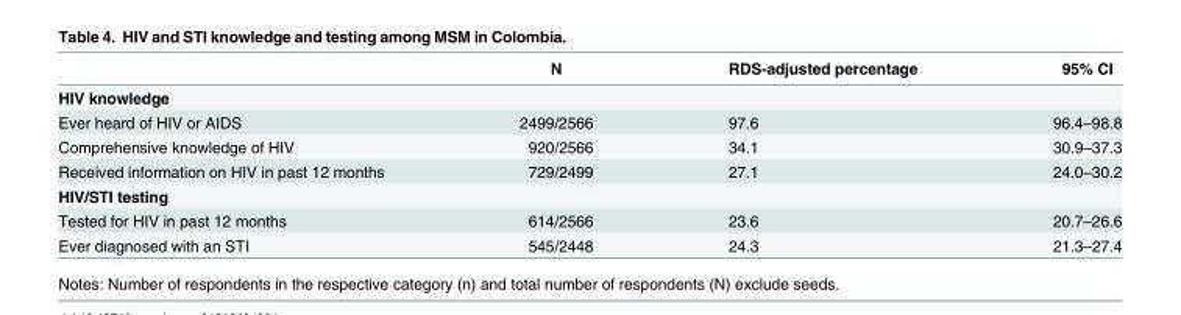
<table><thead><tr><td></td><td>N</td><td>RDS-adjusted percentage</td><td>95% CI</td></tr></thead><tbody><tr><td colspan="4">HIV knowledge</td></tr><tr><td>Ever heard of HIV or AIDS</td><td>2499/2566</td><td>97.6</td><td>96.4–98.8</td></tr><tr><td>Comprehensive knowledge of HIV</td><td>920/2566</td><td>34.1</td><td>30.9–37.3</td></tr><tr><td>Received information on HIV in past 12 months</td><td>729/2499</td><td>27.1</td><td>24.0–30.2</td></tr><tr><td colspan="4">HIV/STI testing</td></tr><tr><td>Tested for HIV in past 12 months</td><td>614/2566</td><td>23.6</td><td>20.7–26.6</td></tr><tr><td>Ever diagnosed with an STI</td><td>545/2448</td><td>24.3</td><td>21.3–27.4</td></tr></tbody></table>